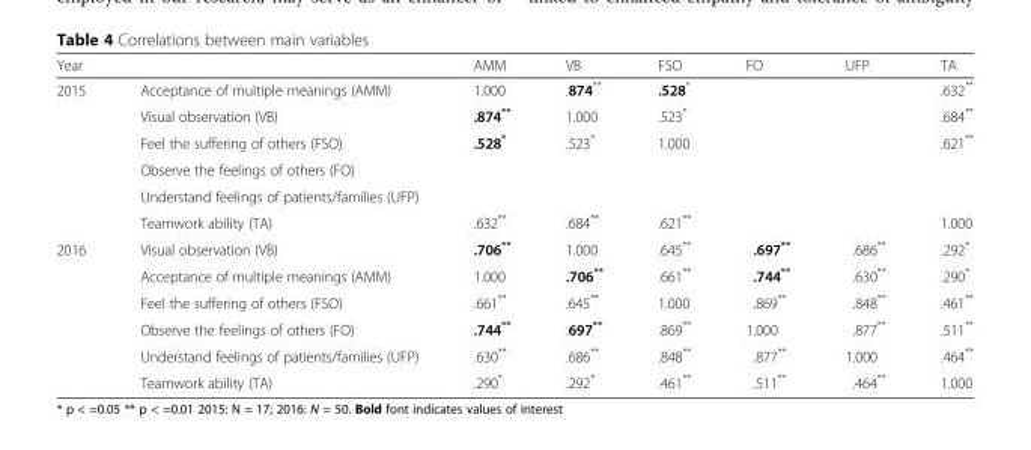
<table><thead><tr><td>Year</td><td></td><td>AMM</td><td>VB</td><td>FSO</td><td>FO</td><td>UFP</td><td>TA</td></tr></thead><tbody><tr><td rowspan="6">2015</td><td>Acceptance of multiple meanings (AMM)</td><td>1.000</td><td>.874**</td><td>.528*</td><td></td><td></td><td>.632**</td></tr><tr><td>Visual observation (VB)</td><td>.874**</td><td>1.000</td><td>.523*</td><td></td><td></td><td>.684**</td></tr><tr><td>Feel the suffering of others (FSO)</td><td>.528*</td><td>.523*</td><td>1.000</td><td></td><td></td><td>.621**</td></tr><tr><td>Observe the feelings of others (FO)</td><td></td><td></td><td></td><td></td><td></td><td></td></tr><tr><td>Understand feelings of patients/families (UFP)</td><td></td><td></td><td></td><td></td><td></td><td></td></tr><tr><td>Teamwork ability (TA)</td><td>.632**</td><td>.684**</td><td>.621**</td><td></td><td></td><td>1.000</td></tr><tr><td rowspan="6">2016</td><td>Visual observation (VB)</td><td>.706**</td><td>1.000</td><td>.645**</td><td>.697**</td><td>.686**</td><td>.292*</td></tr><tr><td>Acceptance of multiple meanings (AMM)</td><td>1.000</td><td>.706**</td><td>.661**</td><td>.744**</td><td>.630**</td><td>.290*</td></tr><tr><td>Feel the suffering of others (FSO)</td><td>.661**</td><td>.645**</td><td>1.000</td><td>.869**</td><td>.848**</td><td>.461**</td></tr><tr><td>Observe the feelings of others (FO)</td><td>.744**</td><td>.697**</td><td>.869**</td><td>1.000</td><td>.877**</td><td>.511**</td></tr><tr><td>Understand feelings of patients/families (UFP)</td><td>.630**</td><td>.686**</td><td>.848**</td><td>.877**</td><td>1.000</td><td>.464**</td></tr><tr><td>Teamwork ability (TA)</td><td>.290*</td><td>.292*</td><td>.461**</td><td>.511**</td><td>.464**</td><td>1.000</td></tr></tbody></table>